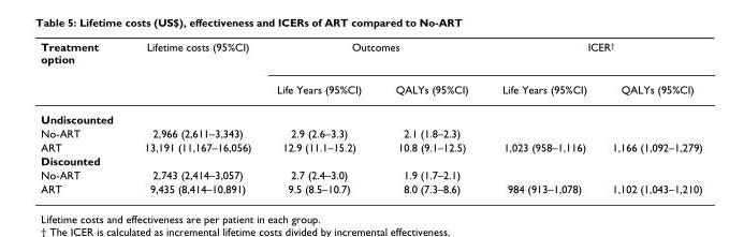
<table><thead><tr><td rowspan="2">Treatment option</td><td rowspan="2">Lifetime costs (95%CI)</td><td colspan="2">Outcomes</td><td colspan="2">ICER<sup>†</sup></td></tr><tr><td>Life Years (95%CI)</td><td>QALYs (95%CI)</td><td>Life Years (95%CI)</td><td>QALYs (95%CI)</td></tr></thead><tbody><tr><td colspan="6">Undiscounted</td></tr><tr><td>No-ART</td><td>2,966 (2,611–3,343)</td><td>2.9 (2.6–3.3)</td><td>2.1 (1.8–2.3)</td><td></td><td></td></tr><tr><td>ART</td><td>13,191 (11,167–16,056)</td><td>12.9 (11.1–15.2)</td><td>10.8 (9.1–12.5)</td><td>1,023 (958–1,116)</td><td>1,166 (1,092–1,279)</td></tr><tr><td colspan="6">Discounted</td></tr><tr><td>No-ART</td><td>2,743 (2,414–3,057)</td><td>2.7 (2.4–3.0)</td><td>1.9 (1.7–2.1)</td><td></td><td></td></tr><tr><td>ART</td><td>9,435 (8,414–10,891)</td><td>9.5 (8.5–10.7)</td><td>8.0 (7.3–8.6)</td><td>984 (913–1,078)</td><td>1,102 (1,043–1,210)</td></tr></tbody></table>